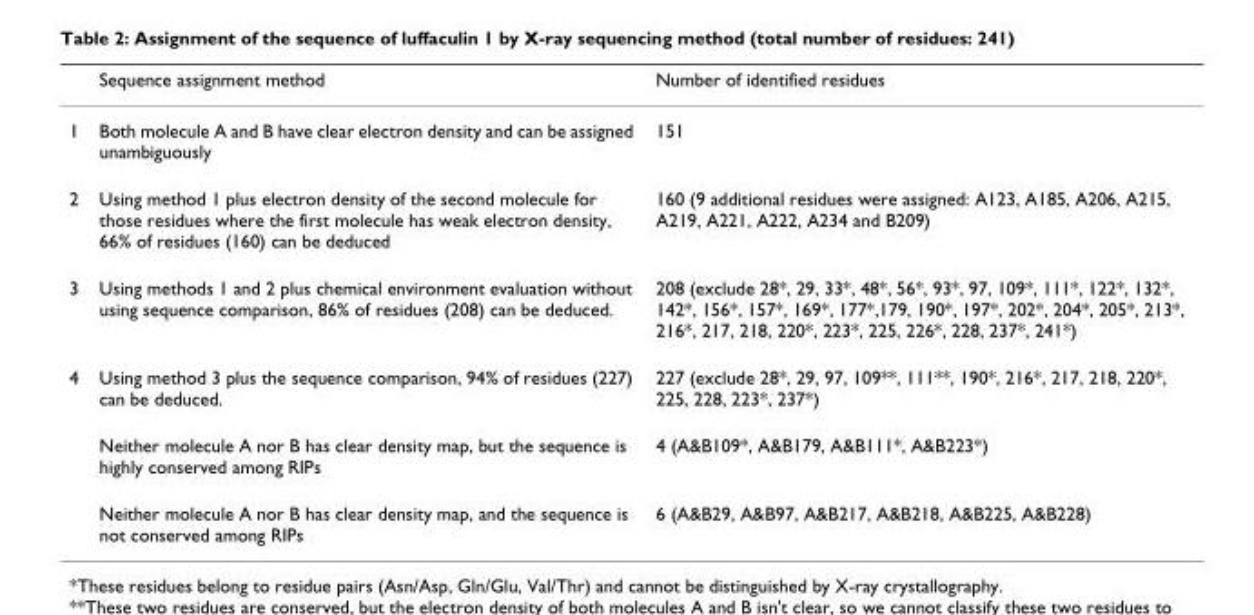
<table><thead><tr><td></td><td>Sequence assignment method</td><td>Number of identified residues</td></tr></thead><tbody><tr><td>1</td><td>Both molecule A and B have clear electron density and can be assigned unambiguously</td><td>151</td></tr><tr><td>2</td><td>Using method 1 plus electron density of the second molecule for those residues where the first molecule has weak electron density, 66% of residues (160) can be deduced</td><td>160 (9 additional residues were assigned: A123, A185, A206, A215, A219, A221, A222, A234 and B209)</td></tr><tr><td>3</td><td>Using methods 1 and 2 plus chemical environment evaluation without using sequence comparison, 86% of residues (208) can be deduced.</td><td>208 (exclude 28*, 29, 33*, 48*, 56*, 93*, 97, 109*, 111*, 122*, 132*, 142*, 156*, 157*, 169*, 177*,179, 190*, 197*, 202*, 204*, 205*, 213*, 216*, 217, 218, 220*, 223*, 225, 226*, 228, 237*, 241*)</td></tr><tr><td rowspan="3">4</td><td>Using method 3 plus the sequence comparison, 94% of residues (227) can be deduced.</td><td>227 (exclude 28*, 29, 97, 109**, 111**, 190*, 216*, 217, 218, 220*, 225, 228, 223*, 237*)</td></tr><tr><td>Neither molecule A nor B has clear density map, but the sequence is highly conserved among RIPs</td><td>4 (A&amp;B109*, A&amp;B179, A&amp;B111*, A&amp;B223*)</td></tr><tr><td>Neither molecule A nor B has clear density map, and the sequence is not conserved among RIPs</td><td>6 (A&amp;B29, A&amp;B97, A&amp;B217, A&amp;B218, A&amp;B225, A&amp;B228)</td></tr></tbody></table>